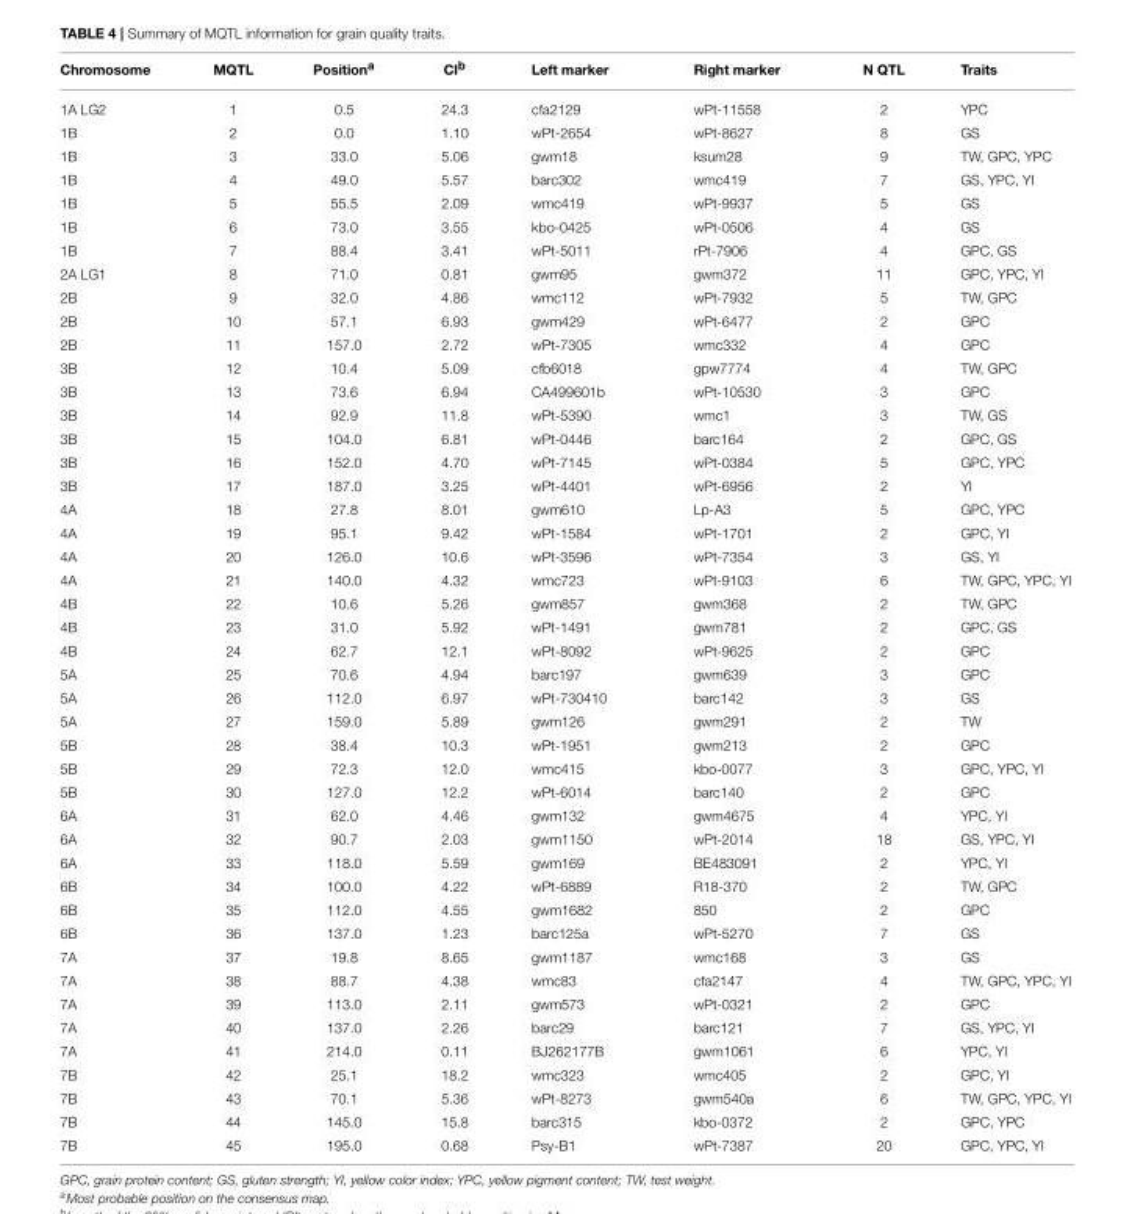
<table><thead><tr><td>Chromosome</td><td>MQTL</td><td>Position<sup>a</sup></td><td>CI<sup>b</sup></td><td>Left marker</td><td>Right marker</td><td>N QTL</td><td>Traits</td></tr></thead><tbody><tr><td>1A LG2</td><td>1</td><td>0.5</td><td>24.3</td><td>cfa2129</td><td>wPt-11558</td><td>2</td><td>YPC</td></tr><tr><td>1B</td><td>2</td><td>0.0</td><td>1.10</td><td>wPt-2654</td><td>wPt-8627</td><td>8</td><td>GS</td></tr><tr><td>1B</td><td>3</td><td>33.0</td><td>5.06</td><td>gwm18</td><td>ksum28</td><td>9</td><td>TW, GPC, YPC</td></tr><tr><td>1B</td><td>4</td><td>49.0</td><td>5.57</td><td>barc302</td><td>wmc419</td><td>7</td><td>GS, YPC, YI</td></tr><tr><td>1B</td><td>5</td><td>55.5</td><td>2.09</td><td>wmc419</td><td>wPt-9937</td><td>5</td><td>GS</td></tr><tr><td>1B</td><td>6</td><td>73.0</td><td>3.55</td><td>kbo-0425</td><td>wPt-0506</td><td>4</td><td>GS</td></tr><tr><td>1B</td><td>7</td><td>88.4</td><td>3.41</td><td>wPt-5011</td><td>rPt-7906</td><td>4</td><td>GPC, GS</td></tr><tr><td>2A LG1</td><td>8</td><td>71.0</td><td>0.81</td><td>gwm95</td><td>gwm372</td><td>11</td><td>GPC, YPC, YI</td></tr><tr><td>2B</td><td>9</td><td>32.0</td><td>4.86</td><td>wmc112</td><td>wPt-7932</td><td>5</td><td>TW, GPC</td></tr><tr><td>2B</td><td>10</td><td>57.1</td><td>6.93</td><td>gwm429</td><td>wPt-6477</td><td>2</td><td>GPC</td></tr><tr><td>2B</td><td>11</td><td>157.0</td><td>2.72</td><td>wPt-7305</td><td>wmc332</td><td>4</td><td>GPC</td></tr><tr><td>3B</td><td>12</td><td>10.4</td><td>5.09</td><td>cfb6018</td><td>gpw7774</td><td>4</td><td>TW, GPC</td></tr><tr><td>3B</td><td>13</td><td>73.6</td><td>6.94</td><td>CA499601b</td><td>wPt-10530</td><td>3</td><td>GPC</td></tr><tr><td>3B</td><td>14</td><td>92.9</td><td>11.8</td><td>wPt-5390</td><td>wmc1</td><td>3</td><td>TW, GS</td></tr><tr><td>3B</td><td>15</td><td>104.0</td><td>6.81</td><td>wPt-0446</td><td>barc164</td><td>2</td><td>GPC, GS</td></tr><tr><td>3B</td><td>16</td><td>152.0</td><td>4.70</td><td>wPt-7145</td><td>wPt-0384</td><td>5</td><td>GPC, YPC</td></tr><tr><td>3B</td><td>17</td><td>187.0</td><td>3.25</td><td>wPt-4401</td><td>wPt-6956</td><td>2</td><td>YI</td></tr><tr><td>4A</td><td>18</td><td>27.8</td><td>8.01</td><td>gwm610</td><td>Lp-A3</td><td>5</td><td>GPC, YPC</td></tr><tr><td>4A</td><td>19</td><td>95.1</td><td>9.42</td><td>wPt-1584</td><td>wPt-1701</td><td>2</td><td>GPC, YI</td></tr><tr><td>4A</td><td>20</td><td>126.0</td><td>10.6</td><td>wPt-3596</td><td>wPt-7354</td><td>3</td><td>GS, YI</td></tr><tr><td>4A</td><td>21</td><td>140.0</td><td>4.32</td><td>wmc723</td><td>wPt-9103</td><td>6</td><td>TW, GPC, YPC, YI</td></tr><tr><td>4B</td><td>22</td><td>10.6</td><td>5.26</td><td>gwm857</td><td>gwm368</td><td>2</td><td>TW, GPC</td></tr><tr><td>4B</td><td>23</td><td>31.0</td><td>5.92</td><td>wPt-1491</td><td>gwm781</td><td>2</td><td>GPC, GS</td></tr><tr><td>4B</td><td>24</td><td>62.7</td><td>12.1</td><td>wPt-8092</td><td>wPt-9625</td><td>2</td><td>GPC</td></tr><tr><td>5A</td><td>25</td><td>70.6</td><td>4.94</td><td>barc197</td><td>gwm639</td><td>3</td><td>GPC</td></tr><tr><td>5A</td><td>26</td><td>112.0</td><td>6.97</td><td>wPt-730410</td><td>barc142</td><td>3</td><td>GS</td></tr><tr><td>5A</td><td>27</td><td>159.0</td><td>5.89</td><td>gwm126</td><td>gwm291</td><td>2</td><td>TW</td></tr><tr><td>5B</td><td>28</td><td>38.4</td><td>10.3</td><td>wPt-1951</td><td>gwm213</td><td>2</td><td>GPC</td></tr><tr><td>5B</td><td>29</td><td>72.3</td><td>12.0</td><td>wmc415</td><td>kbo-0077</td><td>3</td><td>GPC, YPC, YI</td></tr><tr><td>5B</td><td>30</td><td>127.0</td><td>12.2</td><td>wPt-6014</td><td>barc140</td><td>2</td><td>GPC</td></tr><tr><td>6A</td><td>31</td><td>62.0</td><td>4.46</td><td>gwm132</td><td>gwm4675</td><td>4</td><td>YPC, YI</td></tr><tr><td>6A</td><td>32</td><td>90.7</td><td>2.03</td><td>gwm1150</td><td>wPt-2014</td><td>18</td><td>GS, YPC, YI</td></tr><tr><td>6A</td><td>33</td><td>118.0</td><td>5.59</td><td>gwm169</td><td>BE483091</td><td>2</td><td>YPC, YI</td></tr><tr><td>6B</td><td>34</td><td>100.0</td><td>4.22</td><td>wPt-6889</td><td>R18-370</td><td>2</td><td>TW, GPC</td></tr><tr><td>6B</td><td>35</td><td>112.0</td><td>4.55</td><td>gwm1682</td><td>850</td><td>2</td><td>GPC</td></tr><tr><td>6B</td><td>36</td><td>137.0</td><td>1.23</td><td>barc125a</td><td>wPt-5270</td><td>7</td><td>GS</td></tr><tr><td>7A</td><td>37</td><td>19.8</td><td>8.65</td><td>gwm1187</td><td>wmc168</td><td>3</td><td>GS</td></tr><tr><td>7A</td><td>38</td><td>88.7</td><td>4.38</td><td>wmc83</td><td>cfa2147</td><td>4</td><td>TW, GPC, YPC, YI</td></tr><tr><td>7A</td><td>39</td><td>113.0</td><td>2.11</td><td>gwm573</td><td>wPt-0321</td><td>2</td><td>GPC</td></tr><tr><td>7A</td><td>40</td><td>137.0</td><td>2.26</td><td>barc29</td><td>barc121</td><td>7</td><td>GS, YPC, YI</td></tr><tr><td>7A</td><td>41</td><td>214.0</td><td>0.11</td><td>BJ262177B</td><td>gwm1061</td><td>6</td><td>YPC, YI</td></tr><tr><td>7B</td><td>42</td><td>25.1</td><td>18.2</td><td>wmc323</td><td>wmc405</td><td>2</td><td>GPC, YI</td></tr><tr><td>7B</td><td>43</td><td>70.1</td><td>5.36</td><td>wPt-8273</td><td>gwm540a</td><td>6</td><td>TW, GPC, YPC, YI</td></tr><tr><td>7B</td><td>44</td><td>145.0</td><td>15.8</td><td>barc315</td><td>kbo-0372</td><td>2</td><td>GPC, YPC</td></tr><tr><td>7B</td><td>45</td><td>195.0</td><td>0.68</td><td>Psy-B1</td><td>wPt-7387</td><td>20</td><td>GPC, YPC, YI</td></tr></tbody></table>